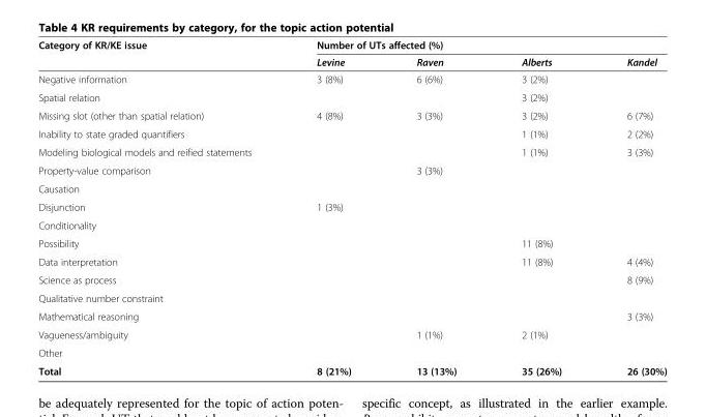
<table><thead><tr><td rowspan="2">Category of KR/KE issue</td><td colspan="4">Number of UTs affected (%)</td></tr><tr><td>Levine</td><td>Raven</td><td>Alberts</td><td>Kandel</td></tr></thead><tbody><tr><td>Negative information</td><td>3 (8%)</td><td>6 (6%)</td><td>3 (2%)</td><td></td></tr><tr><td>Spatial relation</td><td></td><td></td><td>3 (2%)</td><td></td></tr><tr><td>Missing slot (other than spatial relation)</td><td>4 (8%)</td><td>3 (3%)</td><td>3 (2%)</td><td>6 (7%)</td></tr><tr><td>Inability to state graded quantifiers</td><td></td><td></td><td>1 (1%)</td><td>2 (2%)</td></tr><tr><td>Modeling biological models and reified statements</td><td></td><td></td><td>1 (1%)</td><td>3 (3%)</td></tr><tr><td>Property-value comparison</td><td></td><td>3 (3%)</td><td></td><td></td></tr><tr><td colspan="5">Causation</td></tr><tr><td>Disjunction</td><td>1 (3%)</td><td></td><td></td><td></td></tr><tr><td colspan="5">Conditionality</td></tr><tr><td>Possibility</td><td></td><td></td><td>11 (8%)</td><td></td></tr><tr><td>Data interpretation</td><td></td><td></td><td>11 (8%)</td><td>4 (4%)</td></tr><tr><td>Science as process</td><td></td><td></td><td></td><td>8 (9%)</td></tr><tr><td colspan="5">Qualitative number constraint</td></tr><tr><td>Mathematical reasoning</td><td></td><td></td><td></td><td>3 (3%)</td></tr><tr><td>Vagueness/ambiguity</td><td></td><td>1 (1%)</td><td>2 (1%)</td><td></td></tr><tr><td colspan="5">Other</td></tr><tr><td>Total</td><td>8 (21%)</td><td>13 (13%)</td><td>35 (26%)</td><td>26 (30%)</td></tr></tbody></table>